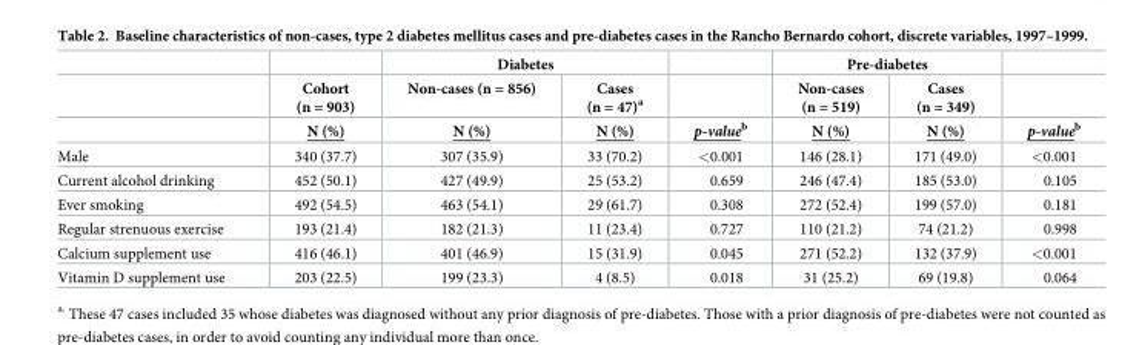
<table><thead><tr><td rowspan="3"></td><td rowspan="3">Cohort (n = 903) N (%)</td><td colspan="2">Diabetes</td><td rowspan="3">p-value<sup>b</sup></td><td colspan="2">Pre-diabetes</td><td rowspan="3">p-value<sup>b</sup></td></tr><tr><td rowspan="2">Non-cases (n = 856) N (%)</td><td rowspan="2">Cases (n = 47)<sup>a</sup> N (%)</td><td rowspan="2">Non-cases (n = 519) N (%)</td><td rowspan="2">Cases (n = 349) N (%)</td></tr><tr></tr></thead><tbody><tr><td>Male</td><td>340 (37.7)</td><td>307 (35.9)</td><td>33 (70.2)</td><td>&lt;0.001</td><td>146 (28.1)</td><td>171 (49.0)</td><td>&lt;0.001</td></tr><tr><td>Current alcohol drinking</td><td>452 (50.1)</td><td>427 (49.9)</td><td>25 (53.2)</td><td>0.659</td><td>246 (47.4)</td><td>185 (53.0)</td><td>0.105</td></tr><tr><td>Ever smoking</td><td>492 (54.5)</td><td>463 (54.1)</td><td>29 (61.7)</td><td>0.308</td><td>272 (52.4)</td><td>199 (57.0)</td><td>0.181</td></tr><tr><td>Regular strenuous exercise</td><td>193 (21.4)</td><td>182 (21.3)</td><td>11 (23.4)</td><td>0.727</td><td>110 (21.2)</td><td>74 (21.2)</td><td>0.998</td></tr><tr><td>Calcium supplement use</td><td>416 (46.1)</td><td>401 (46.9)</td><td>15 (31.9)</td><td>0.045</td><td>271 (52.2)</td><td>132 (37.9)</td><td>&lt;0.001</td></tr><tr><td>Vitamin D supplement use</td><td>203 (22.5)</td><td>199 (23.3)</td><td>4 (8.5)</td><td>0.018</td><td>31 (25.2)</td><td>69 (19.8)</td><td>0.064</td></tr></tbody></table>